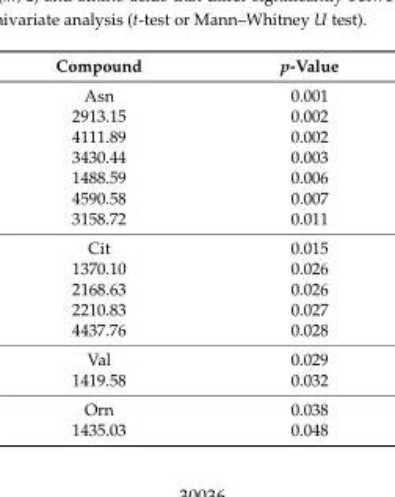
<table><thead><tr><td>Compound</td><td>p-Value</td></tr></thead><tbody><tr><td>Asn</td><td>0.001</td></tr><tr><td>2913.15</td><td>0.002</td></tr><tr><td>4111.89</td><td>0.002</td></tr><tr><td>3430.44</td><td>0.003</td></tr><tr><td>1488.59</td><td>0.006</td></tr><tr><td>4590.58</td><td>0.007</td></tr><tr><td>3158.72</td><td>0.011</td></tr><tr><td>Cit</td><td>0.015</td></tr><tr><td>1370.10</td><td>0.026</td></tr><tr><td>2168.63</td><td>0.026</td></tr><tr><td>2210.83</td><td>0.027</td></tr><tr><td>4437.76</td><td>0.028</td></tr><tr><td>Val</td><td>0.029</td></tr><tr><td>1419.58</td><td>0.032</td></tr><tr><td>Orn</td><td>0.038</td></tr><tr><td>1435.03</td><td>0.048</td></tr></tbody></table>